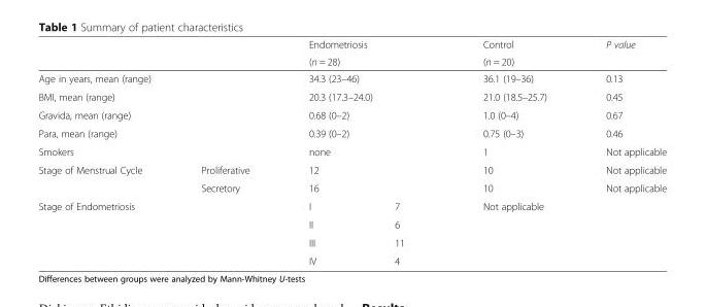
<table><thead><tr><td rowspan="2"></td><td rowspan="2"></td><td rowspan="2" colspan="2">Endometriosis (n = 28)</td><td rowspan="2">Control (n = 20)</td><td rowspan="2">P value</td></tr><tr></tr></thead><tbody><tr><td colspan="2">Age in years, mean (range)</td><td colspan="2">34.3 (23–46)</td><td>36.1 (19–36)</td><td>0.13</td></tr><tr><td colspan="2">BMI, mean (range)</td><td colspan="2">20.3 (17.3–24.0)</td><td>21.0 (18.5–25.7)</td><td>0.45</td></tr><tr><td colspan="2">Gravida, mean (range)</td><td colspan="2">0.68 (0–2)</td><td>1.0 (0–4)</td><td>0.67</td></tr><tr><td colspan="2">Para, mean (range)</td><td colspan="2">0.39 (0–2)</td><td>0.75 (0–3)</td><td>0.46</td></tr><tr><td colspan="2">Smokers</td><td colspan="2">none</td><td>1</td><td>Not applicable</td></tr><tr><td rowspan="2">Stage of Menstrual Cycle</td><td>Proliferative</td><td colspan="2">12</td><td>10</td><td>Not applicable</td></tr><tr><td>Secretory</td><td colspan="2">16</td><td>10</td><td>Not applicable</td></tr><tr><td rowspan="4" colspan="2">Stage of Endometriosis</td><td>I</td><td>7</td><td rowspan="4">Not applicable</td><td rowspan="4"></td></tr><tr><td>II</td><td>6</td></tr><tr><td>III</td><td>11</td></tr><tr><td>IV</td><td>4</td></tr></tbody></table>